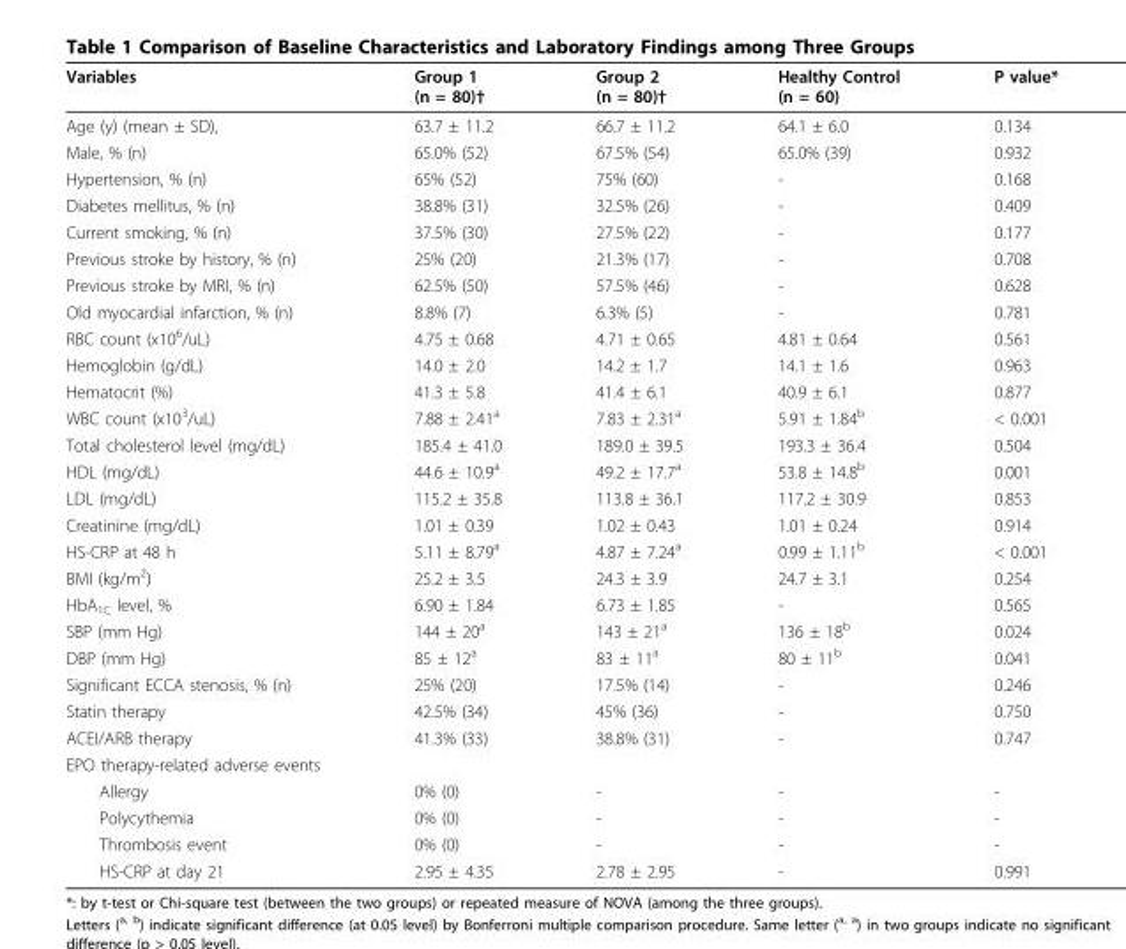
<table><thead><tr><td>Variables</td><td>Group 1 (n = 80)†</td><td>Group 2 (n = 80)†</td><td>Healthy Control (n = 60)</td><td>P value*</td></tr></thead><tbody><tr><td>Age (y) (mean ± SD),</td><td>63.7 ± 11.2</td><td>66.7 ± 11.2</td><td>64.1 ± 6.0</td><td>0.134</td></tr><tr><td>Male, % (n)</td><td>65.0% (52)</td><td>67.5% (54)</td><td>65.0% (39)</td><td>0.932</td></tr><tr><td>Hypertension, % (n)</td><td>65% (52)</td><td>75% (60)</td><td>-</td><td>0.168</td></tr><tr><td>Diabetes mellitus, % (n)</td><td>38.8% (31)</td><td>32.5% (26)</td><td>-</td><td>0.409</td></tr><tr><td>Current smoking, % (n)</td><td>37.5% (30)</td><td>27.5% (22)</td><td>-</td><td>0.177</td></tr><tr><td>Previous stroke by history, % (n)</td><td>25% (20)</td><td>21.3% (17)</td><td>-</td><td>0.708</td></tr><tr><td>Previous stroke by MRI, % (n)</td><td>62.5% (50)</td><td>57.5% (46)</td><td>-</td><td>0.628</td></tr><tr><td>Old myocardial infarction, % (n)</td><td>8.8% (7)</td><td>6.3% (5)</td><td>-</td><td>0.781</td></tr><tr><td>RBC count (x10<sup>6</sup>/uL)</td><td>4.75 ± 0.68</td><td>4.71 ± 0.65</td><td>4.81 ± 0.64</td><td>0.561</td></tr><tr><td>Hemoglobin (g/dL)</td><td>14.0 ± 2.0</td><td>14.2 ± 1.7</td><td>14.1 ± 1.6</td><td>0.963</td></tr><tr><td>Hematocrit (%)</td><td>41.3 ± 5.8</td><td>41.4 ± 6.1</td><td>40.9 ± 6.1</td><td>0.877</td></tr><tr><td>WBC count (x10<sup>3</sup>/uL)</td><td>7.88 ± 2.41<sup>a</sup></td><td>7.83 ± 2.31<sup>a</sup></td><td>5.91 ± 1.84<sup>b</sup></td><td>&lt; 0.001</td></tr><tr><td>Total cholesterol level (mg/dL)</td><td>185.4 ± 41.0</td><td>189.0 ± 39.5</td><td>193.3 ± 36.4</td><td>0.504</td></tr><tr><td>HDL (mg/dL)</td><td>44.6 ± 10.9<sup>a</sup></td><td>49.2 ± 17.7<sup>a</sup></td><td>53.8 ± 14.8<sup>b</sup></td><td>0.001</td></tr><tr><td>LDL (mg/dL)</td><td>115.2 ± 35.8</td><td>113.8 ± 36.1</td><td>117.2 ± 30.9</td><td>0.853</td></tr><tr><td>Creatinine (mg/dL)</td><td>1.01 ± 0.39</td><td>1.02 ± 0.43</td><td>1.01 ± 0.24</td><td>0.914</td></tr><tr><td>HS-CRP at 48 h</td><td>5.11 ± 8.79<sup>a</sup></td><td>4.87 ± 7.24<sup>a</sup></td><td>0.99 ± 1.11<sup>b</sup></td><td>&lt; 0.001</td></tr><tr><td>BMI (kg/m<sup>2</sup>)</td><td>25.2 ± 3.5</td><td>24.3 ± 3.9</td><td>24.7 ± 3.1</td><td>0.254</td></tr><tr><td>HbA<sub>1C</sub> level, %</td><td>6.90 ± 1.84</td><td>6.73 ± 1.85</td><td>-</td><td>0.565</td></tr><tr><td>SBP (mm Hg)</td><td>144 ± 20<sup>a</sup></td><td>143 ± 21<sup>a</sup></td><td>136 ± 18<sup>b</sup></td><td>0.024</td></tr><tr><td>DBP (mm Hg)</td><td>85 ± 12<sup>a</sup></td><td>83 ± 11<sup>a</sup></td><td>80 ± 11<sup>b</sup></td><td>0.041</td></tr><tr><td>Significant ECCA stenosis, % (n)</td><td>25% (20)</td><td>17.5% (14)</td><td>-</td><td>0.246</td></tr><tr><td>Statin therapy</td><td>42.5% (34)</td><td>45% (36)</td><td>-</td><td>0.750</td></tr><tr><td>ACEI/ARB therapy</td><td>41.3% (33)</td><td>38.8% (31)</td><td>-</td><td>0.747</td></tr><tr><td colspan="5">EPO therapy-related adverse events</td></tr><tr><td>Allergy</td><td>0% (0)</td><td>-</td><td>-</td><td>-</td></tr><tr><td>Polycythemia</td><td>0% (0)</td><td>-</td><td>-</td><td>-</td></tr><tr><td>Thrombosis event</td><td>0% (0)</td><td>-</td><td>-</td><td>-</td></tr><tr><td>HS-CRP at day 21</td><td>2.95 ± 4.35</td><td>2.78 ± 2.95</td><td>-</td><td>0.991</td></tr></tbody></table>